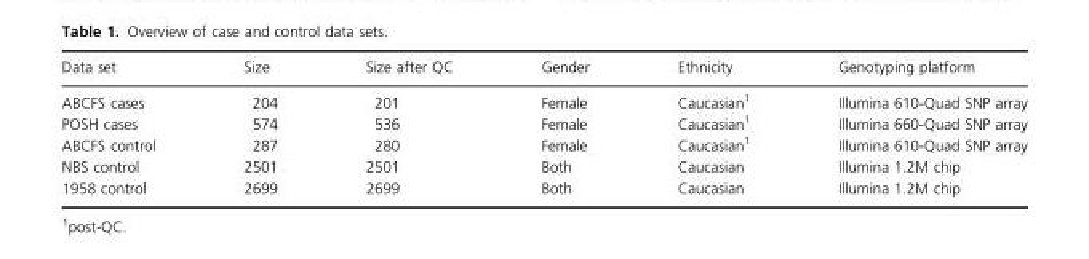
<table><thead><tr><td>Data set</td><td>Size</td><td>Size after QC</td><td>Gender</td><td>Ethnicity</td><td>Genotyping platform</td></tr></thead><tbody><tr><td>ABCFS cases</td><td>204</td><td>201</td><td>Female</td><td>Caucasian<sup>1</sup></td><td>Illumina 610-Quad SNP array</td></tr><tr><td>POSH cases</td><td>574</td><td>536</td><td>Female</td><td>Caucasian<sup>1</sup></td><td>Illumina 660-Quad SNP array</td></tr><tr><td>ABCFS control</td><td>287</td><td>280</td><td>Female</td><td>Caucasian<sup>1</sup></td><td>Illumina 610-Quad SNP array</td></tr><tr><td>NBS control</td><td>2501</td><td>2501</td><td>Both</td><td>Caucasian</td><td>Illumina 1.2M chip</td></tr><tr><td>1958 control</td><td>2699</td><td>2699</td><td>Both</td><td>Caucasian</td><td>Illumina 1.2M chip</td></tr></tbody></table>